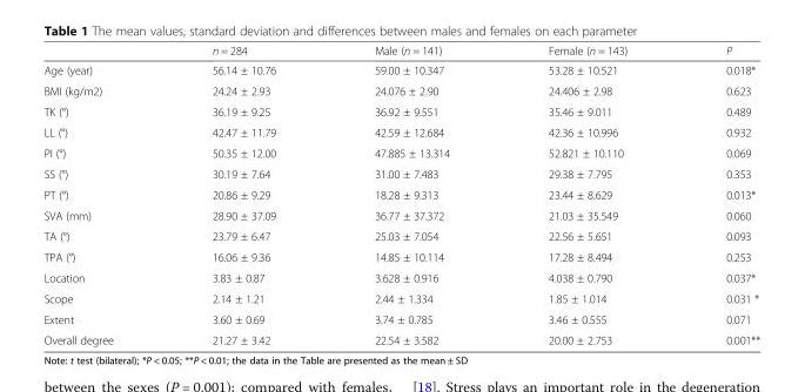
<table><thead><tr><td></td><td>n = 284</td><td>Male (n = 141)</td><td>Female (n = 143)</td><td>P</td></tr></thead><tbody><tr><td>Age (year)</td><td>56.14 ± 10.76</td><td>59.00 ± 10.347</td><td>53.28 ± 10.521</td><td>0.018*</td></tr><tr><td>BMI (kg/m2)</td><td>24.24 ± 2.93</td><td>24.076 ± 2.90</td><td>24.406 ± 2.98</td><td>0.623</td></tr><tr><td>TK (°)</td><td>36.19 ± 9.25</td><td>36.92 ± 9.551</td><td>35.46 ± 9.011</td><td>0.489</td></tr><tr><td>LL (°)</td><td>42.47 ± 11.79</td><td>42.59 ± 12.684</td><td>42.36 ± 10.996</td><td>0.932</td></tr><tr><td>PI (°)</td><td>50.35 ± 12.00</td><td>47.885 ± 13.314</td><td>52.821 ± 10.110</td><td>0.069</td></tr><tr><td>SS (°)</td><td>30.19 ± 7.64</td><td>31.00 ± 7.483</td><td>29.38 ± 7.795</td><td>0.353</td></tr><tr><td>PT (°)</td><td>20.86 ± 9.29</td><td>18.28 ± 9.313</td><td>23.44 ± 8.629</td><td>0.013*</td></tr><tr><td>SVA (mm)</td><td>28.90 ± 37.09</td><td>36.77 ± 37.372</td><td>21.03 ± 35.549</td><td>0.060</td></tr><tr><td>TA (°)</td><td>23.79 ± 6.47</td><td>25.03 ± 7.054</td><td>22.56 ± 5.651</td><td>0.093</td></tr><tr><td>TPA (°)</td><td>16.06 ± 9.36</td><td>14.85 ± 10.114</td><td>17.28 ± 8.494</td><td>0.253</td></tr><tr><td>Location</td><td>3.83 ± 0.87</td><td>3.628 ± 0.916</td><td>4.038 ± 0.790</td><td>0.037*</td></tr><tr><td>Scope</td><td>2.14 ± 1.21</td><td>2.44 ± 1.334</td><td>1.85 ± 1.014</td><td>0.031 *</td></tr><tr><td>Extent</td><td>3.60 ± 0.69</td><td>3.74 ± 0.785</td><td>3.46 ± 0.555</td><td>0.071</td></tr><tr><td>Overall degree</td><td>21.27 ± 3.42</td><td>22.54 ± 3.582</td><td>20.00 ± 2.753</td><td>0.001**</td></tr></tbody></table>